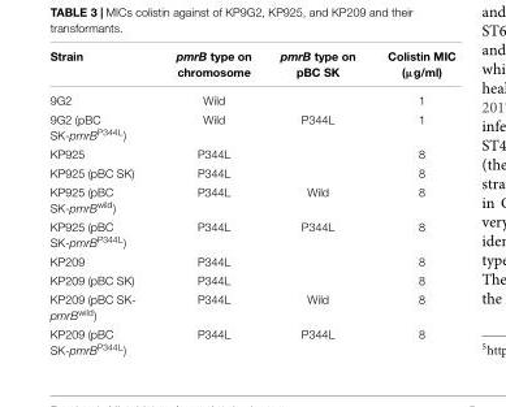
<table><thead><tr><td>Strain</td><td>pmrB type on chromosome</td><td>pmrB type on pBC SK</td><td>Colistin MIC (µg/ml)</td></tr></thead><tbody><tr><td>9G2</td><td>Wild</td><td></td><td>1</td></tr><tr><td>9G2 (pBC SK-pmrB<sup>P344L</sup>)</td><td>Wild</td><td>P344L</td><td>1</td></tr><tr><td>KP925</td><td>P344L</td><td></td><td>8</td></tr><tr><td>KP925 (pBC SK)</td><td>P344L</td><td></td><td>8</td></tr><tr><td>KP925 (pBC SK-pmrB<sup>wild</sup>)</td><td>P344L</td><td>Wild</td><td>8</td></tr><tr><td>KP925 (pBC SK-pmrB<sup>P344L</sup>)</td><td>P344L</td><td>P344L</td><td>8</td></tr><tr><td>KP209</td><td>P344L</td><td></td><td>8</td></tr><tr><td>KP209 (pBC SK)</td><td>P344L</td><td></td><td>8</td></tr><tr><td>KP209 (pBC SK- pmrB<sup>wild</sup>)</td><td>P344L</td><td>Wild</td><td>8</td></tr><tr><td>KP209 (pBC SK-pmrB<sup>P344L</sup>)</td><td>P344L</td><td>P344L</td><td>8</td></tr></tbody></table>